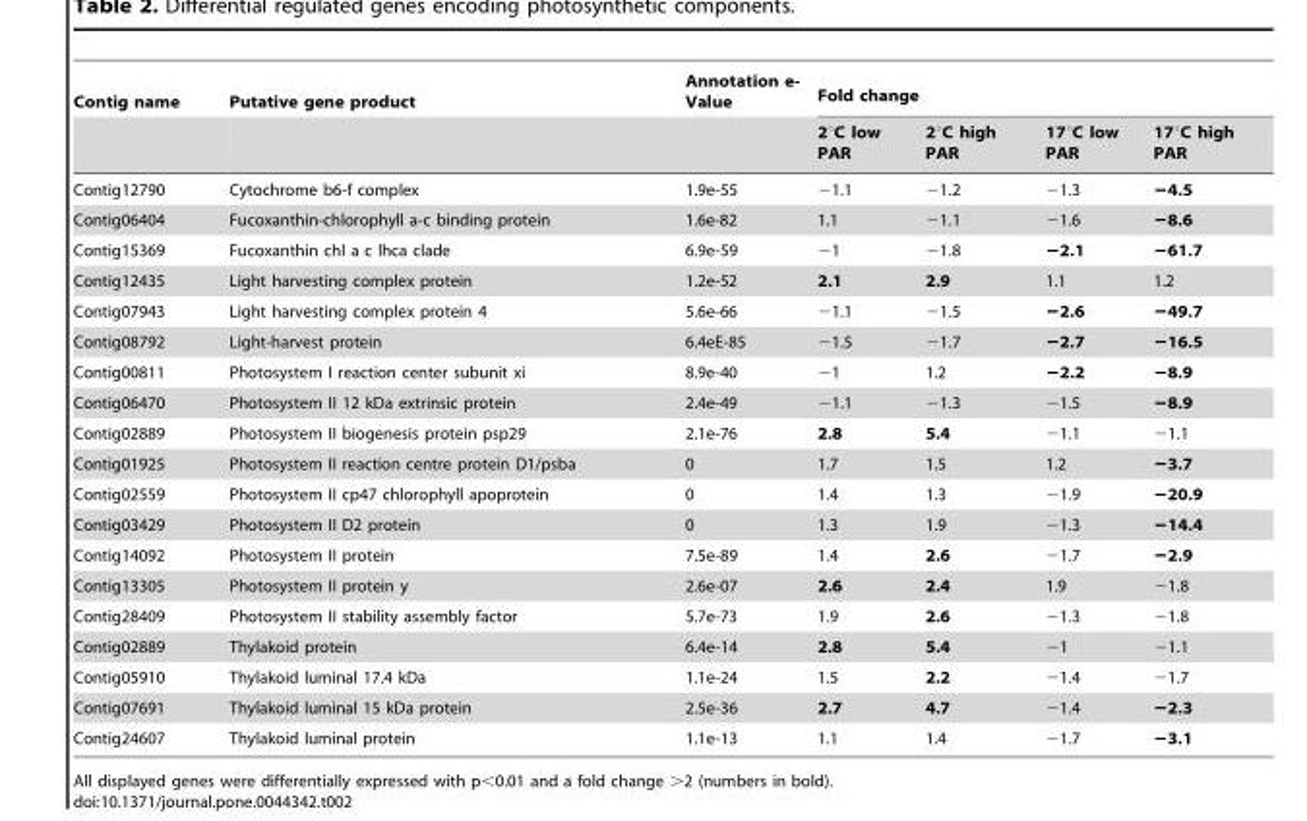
<table><thead><tr><td rowspan="2">Contig name</td><td rowspan="2">Putative gene product</td><td rowspan="2">Annotation e- Value</td><td colspan="4">Fold change</td></tr><tr><td>2°C low PAR</td><td>2°C high PAR</td><td>17°C low PAR</td><td>17°C high PAR</td></tr></thead><tbody><tr><td>Contig12790</td><td>Cytochrome b6-f complex</td><td>1.9e-55</td><td>−1.1</td><td>−1.2</td><td>−1.3</td><td>−4.5</td></tr><tr><td>Contig06404</td><td>Fucoxanthin-chlorophyll a-c binding protein</td><td>1.6e-82</td><td>1.1</td><td>−1.1</td><td>−1.6</td><td>−8.6</td></tr><tr><td>Contig15369</td><td>Fucoxanthin chl a c lhca clade</td><td>6.9e-59</td><td>−1</td><td>−1.8</td><td>−2.1</td><td>−61.7</td></tr><tr><td>Contig12435</td><td>Light harvesting complex protein</td><td>1.2e-52</td><td>2.1</td><td>2.9</td><td>1.1</td><td>1.2</td></tr><tr><td>Contig07943</td><td>Light harvesting complex protein 4</td><td>5.6e-66</td><td>−1.1</td><td>−1.5</td><td>−2.6</td><td>−49.7</td></tr><tr><td>Contig08792</td><td>Light-harvest protein</td><td>6.4eE-85</td><td>−1.5</td><td>−1.7</td><td>−2.7</td><td>−16.5</td></tr><tr><td>Contig00811</td><td>Photosystem I reaction center subunit xi</td><td>8.9e-40</td><td>−1</td><td>1.2</td><td>−2.2</td><td>−8.9</td></tr><tr><td>Contig06470</td><td>Photosystem II 12 kDa extrinsic protein</td><td>2.4e-49</td><td>−1.1</td><td>−1.3</td><td>−1.5</td><td>−8.9</td></tr><tr><td>Contig02889</td><td>Photosystem II biogenesis protein psp29</td><td>2.1e-76</td><td>2.8</td><td>5.4</td><td>−1.1</td><td>−1.1</td></tr><tr><td>Contig01925</td><td>Photosystem II reaction centre protein D1/psba</td><td>0</td><td>1.7</td><td>1.5</td><td>1.2</td><td>−3.7</td></tr><tr><td>Contig02559</td><td>Photosystem II cp47 chlorophyll apoprotein</td><td>0</td><td>1.4</td><td>1.3</td><td>−1.9</td><td>−20.9</td></tr><tr><td>Contig03429</td><td>Photosystem II D2 protein</td><td>0</td><td>1.3</td><td>1.9</td><td>−1.3</td><td>−14.4</td></tr><tr><td>Contig14092</td><td>Photosystem II protein</td><td>7.5e-89</td><td>1.4</td><td>2.6</td><td>−1.7</td><td>−2.9</td></tr><tr><td>Contig13305</td><td>Photosystem II protein y</td><td>2.6e-07</td><td>2.6</td><td>2.4</td><td>1.9</td><td>−1.8</td></tr><tr><td>Contig28409</td><td>Photosystem II stability assembly factor</td><td>5.7e-73</td><td>1.9</td><td>2.6</td><td>−1.3</td><td>−1.8</td></tr><tr><td>Contig02889</td><td>Thylakoid protein</td><td>6.4e-14</td><td>2.8</td><td>5.4</td><td>−1</td><td>−1.1</td></tr><tr><td>Contig05910</td><td>Thylakoid luminal 17.4 kDa</td><td>1.1e-24</td><td>1.5</td><td>2.2</td><td>−1.4</td><td>−1.7</td></tr><tr><td>Contig07691</td><td>Thylakoid luminal 15 kDa protein</td><td>2.5e-36</td><td>2.7</td><td>4.7</td><td>−1.4</td><td>−2.3</td></tr><tr><td>Contig24607</td><td>Thylakoid luminal protein</td><td>1.1e-13</td><td>1.1</td><td>1.4</td><td>−1.7</td><td>−3.1</td></tr></tbody></table>